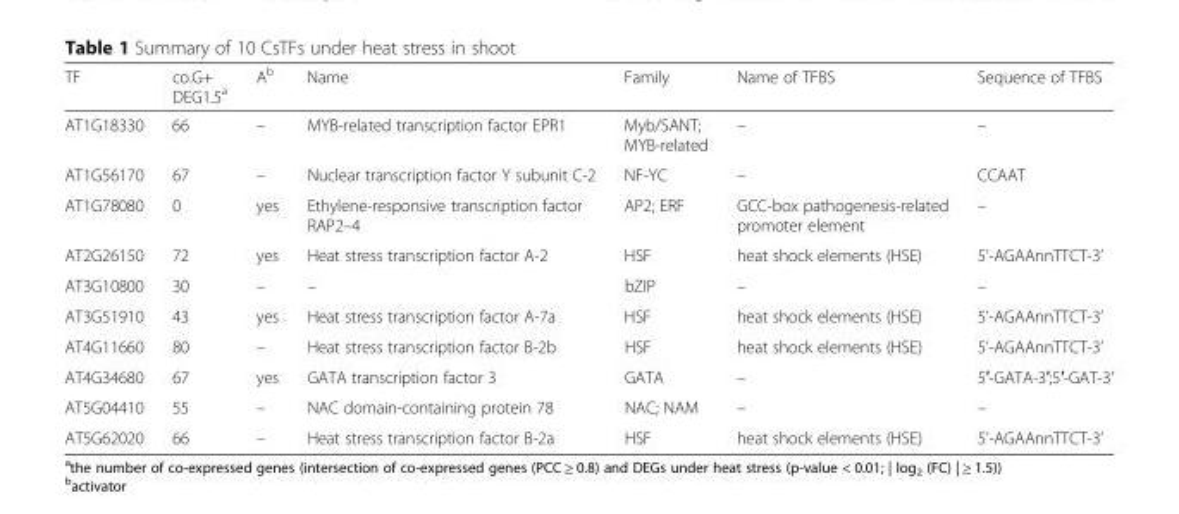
<table><thead><tr><td>TF</td><td>co.G+ DEG1.5<sup>a</sup></td><td>A<sup>b</sup></td><td>Name</td><td>Family</td><td>Name of TFBS</td><td>Sequence of TFBS</td></tr></thead><tbody><tr><td>AT1G18330</td><td>66</td><td>–</td><td>MYB-related transcription factor EPR1</td><td>Myb/SANT; MYB-related</td><td>–</td><td>–</td></tr><tr><td>AT1G56170</td><td>67</td><td>–</td><td>Nuclear transcription factor Y subunit C-2</td><td>NF-YC</td><td>–</td><td>CCAAT</td></tr><tr><td>AT1G78080</td><td>0</td><td>yes</td><td>Ethylene-responsive transcription factor RAP2–4</td><td>AP2; ERF</td><td>GCC-box pathogenesis-related promoter element</td><td>–</td></tr><tr><td>AT2G26150</td><td>72</td><td>yes</td><td>Heat stress transcription factor A-2</td><td>HSF</td><td>heat shock elements (HSE)</td><td>5’-AGAAnnTTCT-3’</td></tr><tr><td>AT3G10800</td><td>30</td><td>–</td><td>–</td><td>bZIP</td><td>–</td><td>–</td></tr><tr><td>AT3G51910</td><td>43</td><td>yes</td><td>Heat stress transcription factor A-7a</td><td>HSF</td><td>heat shock elements (HSE)</td><td>5’-AGAAnnTTCT-3’</td></tr><tr><td>AT4G11660</td><td>80</td><td>–</td><td>Heat stress transcription factor B-2b</td><td>HSF</td><td>heat shock elements (HSE)</td><td>5’-AGAAnnTTCT-3’</td></tr><tr><td>AT4G34680</td><td>67</td><td>yes</td><td>GATA transcription factor 3</td><td>GATA</td><td>–</td><td>5′-GATA-3′;5′-GAT-3’</td></tr><tr><td>AT5G04410</td><td>55</td><td>–</td><td>NAC domain-containing protein 78</td><td>NAC; NAM</td><td>–</td><td>–</td></tr><tr><td>AT5G62020</td><td>66</td><td>–</td><td>Heat stress transcription factor B-2a</td><td>HSF</td><td>heat shock elements (HSE)</td><td>5’-AGAAnnTTCT-3’</td></tr></tbody></table>